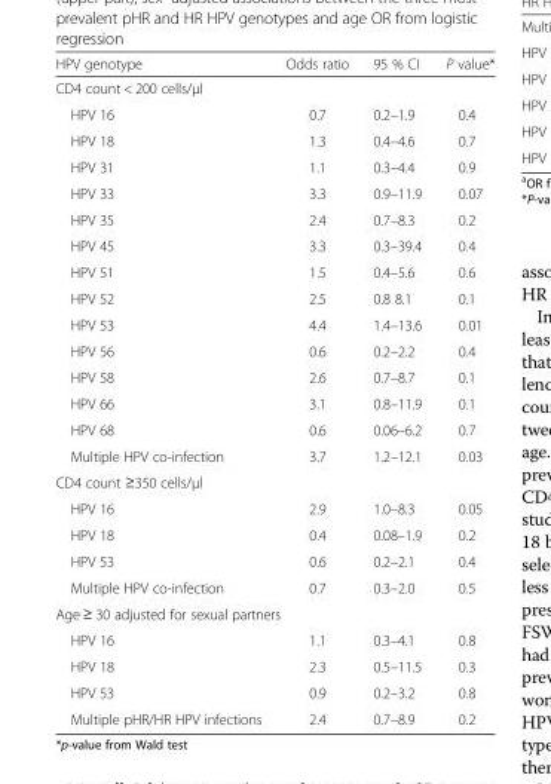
<table><thead><tr><td>HPV genotype</td><td>Odds ratio</td><td>95 % CI</td><td>P value*</td></tr></thead><tbody><tr><td colspan="4">CD4 count &lt; 200 cells/μl</td></tr><tr><td>HPV 16</td><td>0.7</td><td>0.2–1.9</td><td>0.4</td></tr><tr><td>HPV 18</td><td>1.3</td><td>0.4–4.6</td><td>0.7</td></tr><tr><td>HPV 31</td><td>1.1</td><td>0.3–4.4</td><td>0.9</td></tr><tr><td>HPV 33</td><td>3.3</td><td>0.9–11.9</td><td>0.07</td></tr><tr><td>HPV 35</td><td>2.4</td><td>0.7–8.3</td><td>0.2</td></tr><tr><td>HPV 45</td><td>3.3</td><td>0.3–39.4</td><td>0.4</td></tr><tr><td>HPV 51</td><td>1.5</td><td>0.4–5.6</td><td>0.6</td></tr><tr><td>HPV 52</td><td>2.5</td><td>0.8 8.1</td><td>0.1</td></tr><tr><td>HPV 53</td><td>4.4</td><td>1.4–13.6</td><td>0.01</td></tr><tr><td>HPV 56</td><td>0.6</td><td>0.2–2.2</td><td>0.4</td></tr><tr><td>HPV 58</td><td>2.6</td><td>0.7–8.7</td><td>0.1</td></tr><tr><td>HPV 66</td><td>3.1</td><td>0.8–11.9</td><td>0.1</td></tr><tr><td>HPV 68</td><td>0.6</td><td>0.06–6.2</td><td>0.7</td></tr><tr><td>Multiple HPV co-infection</td><td>3.7</td><td>1.2–12.1</td><td>0.03</td></tr><tr><td colspan="4">CD4 count ≥350 cells/μl</td></tr><tr><td>HPV 16</td><td>2.9</td><td>1.0–8.3</td><td>0.05</td></tr><tr><td>HPV 18</td><td>0.4</td><td>0.08–1.9</td><td>0.2</td></tr><tr><td>HPV 53</td><td>0.6</td><td>0.2–2.1</td><td>0.4</td></tr><tr><td>Multiple HPV co-infection</td><td>0.7</td><td>0.3–2.0</td><td>0.5</td></tr><tr><td colspan="4">Age ≥ 30 adjusted for sexual partners</td></tr><tr><td>HPV 16</td><td>1.1</td><td>0.3–4.1</td><td>0.8</td></tr><tr><td>HPV 18</td><td>2.3</td><td>0.5–11.5</td><td>0.3</td></tr><tr><td>HPV 53</td><td>0.9</td><td>0.2–3.2</td><td>0.8</td></tr><tr><td>Multiple pHR/HR HPV infections</td><td>2.4</td><td>0.7–8.9</td><td>0.2</td></tr></tbody></table>